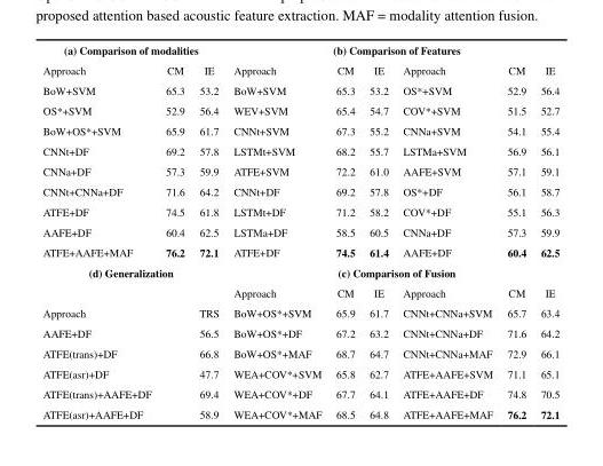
<table><tbody><tr><td colspan="3">(a) Comparison of modalities</td><td colspan="6">(b) Comparison of Features</td></tr><tr><td>Approach</td><td>CM</td><td>IE</td><td>Approach</td><td>CM</td><td>IE</td><td>Approach</td><td>CM</td><td>IE</td></tr><tr><td>BoW+SVM</td><td>65.3</td><td>53.2</td><td>BoW+SVM</td><td>65.3</td><td>53.2</td><td>OS*+SVM</td><td>52.9</td><td>56.4</td></tr><tr><td>OS*+SVM</td><td>52.9</td><td>56.4</td><td>WEV+SVM</td><td>65.4</td><td>54.7</td><td>COV*+SVM</td><td>51.5</td><td>52.7</td></tr><tr><td>BoW+OS*+SVM</td><td>65.9</td><td>61.7</td><td>CNNt+SVM</td><td>67.3</td><td>55.2</td><td>CNNa+SVM</td><td>54.1</td><td>55.4</td></tr><tr><td>CNNt+DF</td><td>69.2</td><td>57.8</td><td>LSTMt+SVM</td><td>68.2</td><td>55.7</td><td>LSTMa+SVM</td><td>56.9</td><td>56.1</td></tr><tr><td>CNNa+DF</td><td>57.3</td><td>59.9</td><td>ATFE+SVM</td><td>72.2</td><td>61.0</td><td>AAFE+SVM</td><td>57.1</td><td>59.1</td></tr><tr><td>CNNt+CNNa+DF</td><td>71.6</td><td>64.2</td><td>CNNt+DF</td><td>69.2</td><td>57.8</td><td>OS*+DF</td><td>56.1</td><td>58.7</td></tr><tr><td>ATFE+DF</td><td>74.5</td><td>61.8</td><td>LSTMt+DF</td><td>71.2</td><td>58.2</td><td>COV*+DF</td><td>55.1</td><td>56.3</td></tr><tr><td>AAFE+DF</td><td>60.4</td><td>62.5</td><td>LSTMa+DF</td><td>58.5</td><td>60.5</td><td>CNNa+DF</td><td>57.3</td><td>59.9</td></tr><tr><td>ATFE+AAFE+MAF</td><td>76.2</td><td>72.1</td><td>ATFE+DF</td><td>74.5</td><td>61.4</td><td>AAFE+DF</td><td>60.4</td><td>62.5</td></tr><tr><td rowspan="2" colspan="3">(d) Generalization</td><td colspan="6">(c) Comparison of Fusion</td></tr><tr><td>Approach</td><td>CM</td><td>IE</td><td>Approach</td><td>CM</td><td>IE</td></tr><tr><td>Approach</td><td></td><td>TRS</td><td>BoW+OS*+SVM</td><td>65.9</td><td>61.7</td><td>CNNt+CNNa+SVM</td><td>65.7</td><td>63.4</td></tr><tr><td>AAFE+DF</td><td></td><td>56.5</td><td>BoW+OS*+DF</td><td>67.2</td><td>63.2</td><td>CNNt+CNNa+DF</td><td>71.6</td><td>64.2</td></tr><tr><td>ATFE(trans)+DF</td><td></td><td>66.8</td><td>BoW+OS*+MAF</td><td>68.7</td><td>64.7</td><td>CNNt+CNNa+MAF</td><td>72.9</td><td>66.1</td></tr><tr><td>ATFE(asr)+DF</td><td></td><td>47.7</td><td>WEA+COV*+SVM</td><td>65.8</td><td>62.7</td><td>ATFE+AAFE+SVM</td><td>71.1</td><td>65.1</td></tr><tr><td>ATFE(trans)+AAFE+DF</td><td></td><td>69.4</td><td>WEA+COV*+DF</td><td>67.7</td><td>64.1</td><td>ATFE+AAFE+DF</td><td>74.8</td><td>70.5</td></tr><tr><td>ATFE(asr)+AAFE+DF</td><td></td><td>58.9</td><td>WEA+COV*+MAF</td><td>68.5</td><td>64.8</td><td>ATFE+AAFE+MAF</td><td>76.2</td><td>72.1</td></tr></tbody></table>